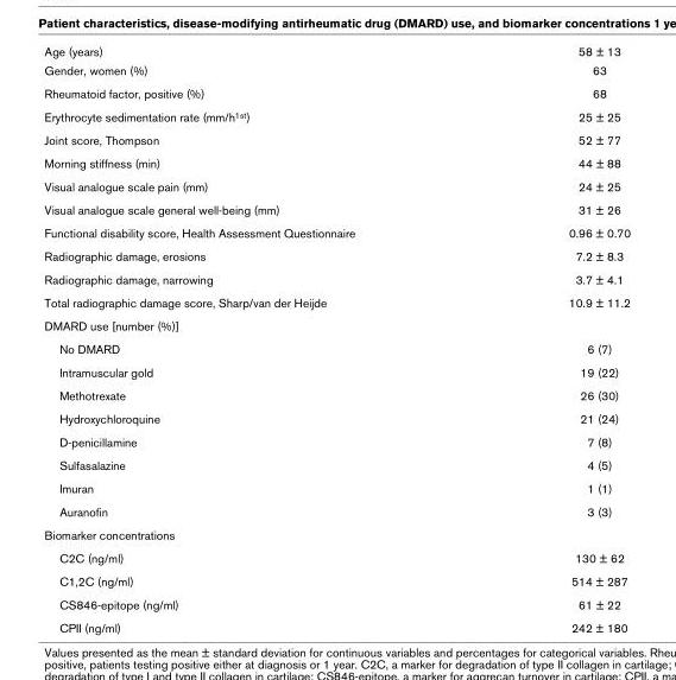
<table><tbody><tr><td>Age (years)</td><td>58 ± 13</td></tr><tr><td>Gender, women (%)</td><td>63</td></tr><tr><td>Rheumatoid factor, positive (%)</td><td>68</td></tr><tr><td>Erythrocyte sedimentation rate (mm/h1st)</td><td>25 ± 25</td></tr><tr><td>Joint score, Thompson</td><td>52 ± 77</td></tr><tr><td>Morning stiffness (min)</td><td>44 ± 88</td></tr><tr><td>Visual analogue scale pain (mm)</td><td>24 ± 25</td></tr><tr><td>Visual analogue scale general well-being (mm)</td><td>31 ± 26</td></tr><tr><td>Functional disability score, Health Assessment Questionnaire</td><td>0.96 ± 0.70</td></tr><tr><td>Radiographic damage, erosions</td><td>7.2 ± 8.3</td></tr><tr><td>Radiographic damage, narrowing</td><td>3.7 ± 4.1</td></tr><tr><td>Total radiographic damage score, Sharp/van der Heijde</td><td>10.9 ± 11.2</td></tr><tr><td colspan="2">DMARD use [number (%)]</td></tr><tr><td>No DMARD</td><td>6 (7)</td></tr><tr><td>Intramuscular gold</td><td>19 (22)</td></tr><tr><td>Methotrexate</td><td>26 (30)</td></tr><tr><td>Hydroxychloroquine</td><td>21 (24)</td></tr><tr><td>D-penicillamine</td><td>7 (8)</td></tr><tr><td>Sulfasalazine</td><td>4 (5)</td></tr><tr><td>Imuran</td><td>1 (1)</td></tr><tr><td>Auranofin</td><td>3 (3)</td></tr><tr><td colspan="2">Biomarker concentrations</td></tr><tr><td>C2C (ng/ml)</td><td>130 ± 62</td></tr><tr><td>C1,2C (ng/ml)</td><td>514 ± 287</td></tr><tr><td>CS846-epitope (ng/ml)</td><td>61 ± 22</td></tr><tr><td>CPII (ng/ml)</td><td>242 ± 180</td></tr></tbody></table>